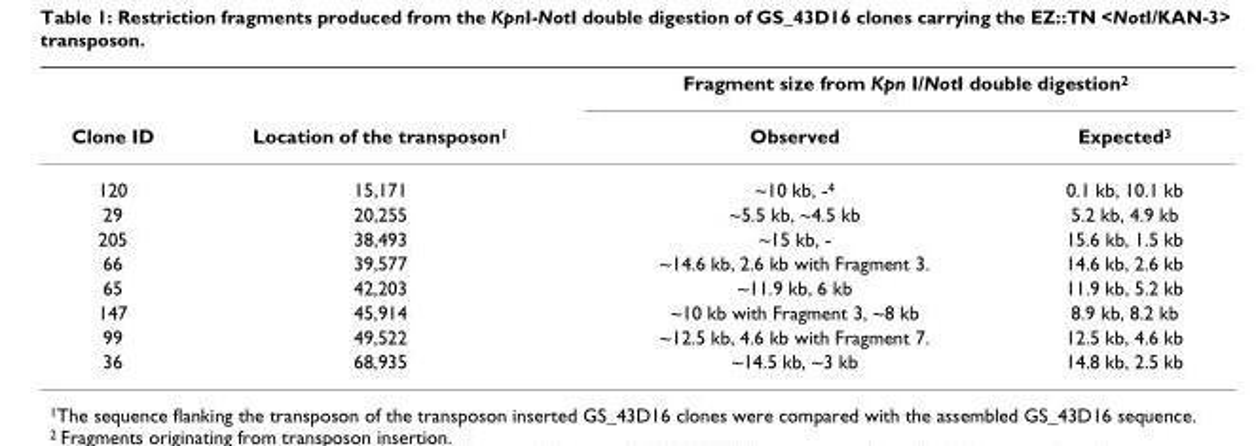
<table><thead><tr><td rowspan="2">Clone ID</td><td rowspan="2">Location of the transposon<sup>1</sup></td><td colspan="2">Fragment size from Kpn I/NotI double digestion<sup>2</sup></td></tr><tr><td>Observed</td><td>Expected<sup>3</sup></td></tr></thead><tbody><tr><td>120</td><td>15,171</td><td>~10 kb, -<sup>4</sup></td><td>0.1 kb, 10.1 kb</td></tr><tr><td>29</td><td>20,255</td><td>~5.5 kb, ~4.5 kb</td><td>5.2 kb, 4.9 kb</td></tr><tr><td>205</td><td>38,493</td><td>~15 kb, -</td><td>15.6 kb, 1.5 kb</td></tr><tr><td>66</td><td>39,577</td><td>~14.6 kb, 2.6 kb with Fragment 3.</td><td>14.6 kb, 2.6 kb</td></tr><tr><td>65</td><td>42,203</td><td>~11.9 kb, 6 kb</td><td>11.9 kb, 5.2 kb</td></tr><tr><td>147</td><td>45,914</td><td>~10 kb with Fragment 3, ~8 kb</td><td>8.9 kb, 8.2 kb</td></tr><tr><td>99</td><td>49,522</td><td>~12.5 kb, 4.6 kb with Fragment 7.</td><td>12.5 kb, 4.6 kb</td></tr><tr><td>36</td><td>68,935</td><td>~14.5 kb, ~3 kb</td><td>14.8 kb, 2.5 kb</td></tr></tbody></table>